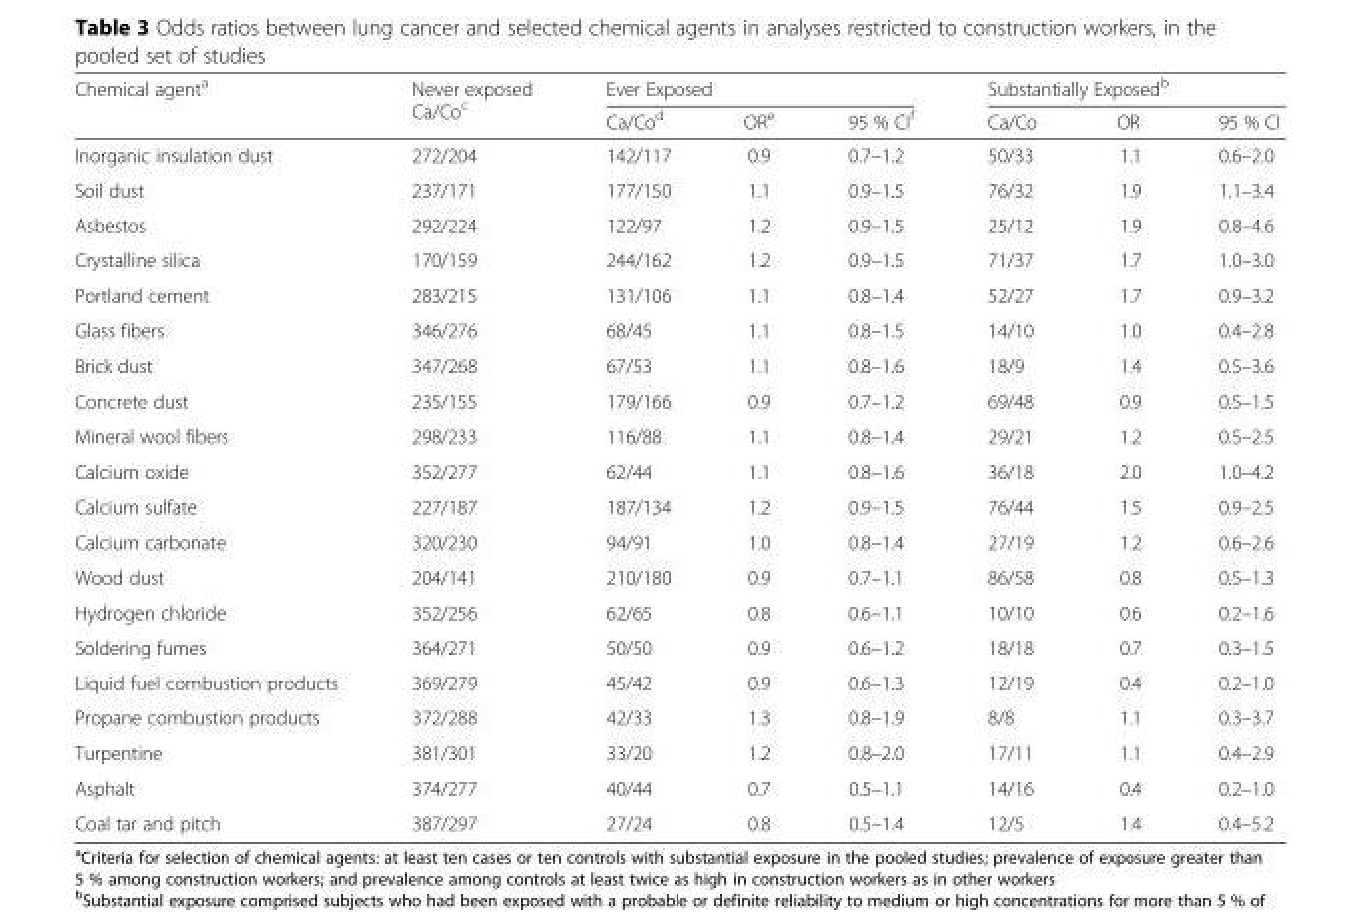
<table><thead><tr><td rowspan="2">Chemical agent<sup>a</sup></td><td rowspan="2">Never exposed Ca/Co<sup>c</sup></td><td colspan="3">Ever Exposed</td><td colspan="3">Substantially Exposed<sup>b</sup></td></tr><tr><td>Ca/Co<sup>d</sup></td><td>OR<sup>e</sup></td><td>95 % CI<sup>f</sup></td><td>Ca/Co</td><td>OR</td><td>95 % CI</td></tr></thead><tbody><tr><td>Inorganic insulation dust</td><td>272/204</td><td>142/117</td><td>0.9</td><td>0.7–1.2</td><td>50/33</td><td>1.1</td><td>0.6–2.0</td></tr><tr><td>Soil dust</td><td>237/171</td><td>177/150</td><td>1.1</td><td>0.9–1.5</td><td>76/32</td><td>1.9</td><td>1.1–3.4</td></tr><tr><td>Asbestos</td><td>292/224</td><td>122/97</td><td>1.2</td><td>0.9–1.5</td><td>25/12</td><td>1.9</td><td>0.8–4.6</td></tr><tr><td>Crystalline silica</td><td>170/159</td><td>244/162</td><td>1.2</td><td>0.9–1.5</td><td>71/37</td><td>1.7</td><td>1.0–3.0</td></tr><tr><td>Portland cement</td><td>283/215</td><td>131/106</td><td>1.1</td><td>0.8–1.4</td><td>52/27</td><td>1.7</td><td>0.9–3.2</td></tr><tr><td>Glass fibers</td><td>346/276</td><td>68/45</td><td>1.1</td><td>0.8–1.5</td><td>14/10</td><td>1.0</td><td>0.4–2.8</td></tr><tr><td>Brick dust</td><td>347/268</td><td>67/53</td><td>1.1</td><td>0.8–1.6</td><td>18/9</td><td>1.4</td><td>0.5–3.6</td></tr><tr><td>Concrete dust</td><td>235/155</td><td>179/166</td><td>0.9</td><td>0.7–1.2</td><td>69/48</td><td>0.9</td><td>0.5–1.5</td></tr><tr><td>Mineral wool fibers</td><td>298/233</td><td>116/88</td><td>1.1</td><td>0.8–1.4</td><td>29/21</td><td>1.2</td><td>0.5–2.5</td></tr><tr><td>Calcium oxide</td><td>352/277</td><td>62/44</td><td>1.1</td><td>0.8–1.6</td><td>36/18</td><td>2.0</td><td>1.0–4.2</td></tr><tr><td>Calcium sulfate</td><td>227/187</td><td>187/134</td><td>1.2</td><td>0.9–1.5</td><td>76/44</td><td>1.5</td><td>0.9–2.5</td></tr><tr><td>Calcium carbonate</td><td>320/230</td><td>94/91</td><td>1.0</td><td>0.8–1.4</td><td>27/19</td><td>1.2</td><td>0.6–2.6</td></tr><tr><td>Wood dust</td><td>204/141</td><td>210/180</td><td>0.9</td><td>0.7–1.1</td><td>86/58</td><td>0.8</td><td>0.5–1.3</td></tr><tr><td>Hydrogen chloride</td><td>352/256</td><td>62/65</td><td>0.8</td><td>0.6–1.1</td><td>10/10</td><td>0.6</td><td>0.2–1.6</td></tr><tr><td>Soldering fumes</td><td>364/271</td><td>50/50</td><td>0.9</td><td>0.6–1.2</td><td>18/18</td><td>0.7</td><td>0.3–1.5</td></tr><tr><td>Liquid fuel combustion products</td><td>369/279</td><td>45/42</td><td>0.9</td><td>0.6–1.3</td><td>12/19</td><td>0.4</td><td>0.2–1.0</td></tr><tr><td>Propane combustion products</td><td>372/288</td><td>42/33</td><td>1.3</td><td>0.8–1.9</td><td>8/8</td><td>1.1</td><td>0.3–3.7</td></tr><tr><td>Turpentine</td><td>381/301</td><td>33/20</td><td>1.2</td><td>0.8–2.0</td><td>17/11</td><td>1.1</td><td>0.4–2.9</td></tr><tr><td>Asphalt</td><td>374/277</td><td>40/44</td><td>0.7</td><td>0.5–1.1</td><td>14/16</td><td>0.4</td><td>0.2–1.0</td></tr><tr><td>Coal tar and pitch</td><td>387/297</td><td>27/24</td><td>0.8</td><td>0.5–1.4</td><td>12/5</td><td>1.4</td><td>0.4–5.2</td></tr></tbody></table>